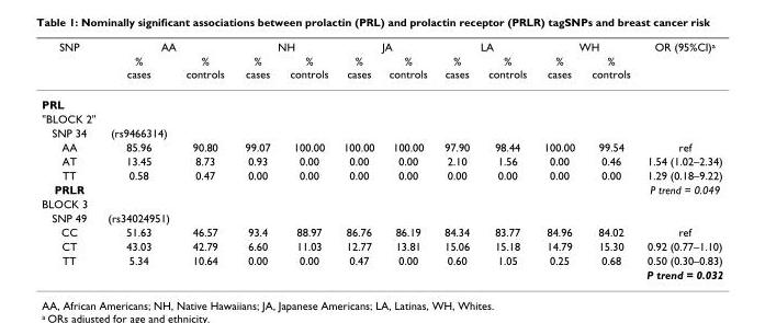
<table><thead><tr><td rowspan="2">SNP</td><td colspan="2">AA</td><td colspan="2">NH</td><td colspan="2">JA</td><td colspan="2">LA</td><td colspan="2">WH</td><td rowspan="2">OR (95%CI)<sup>a</sup></td></tr><tr><td>% cases</td><td>% controls</td><td>% cases</td><td>% controls</td><td>% cases</td><td>% controls</td><td>% cases</td><td>% controls</td><td>% cases</td><td>% controls</td></tr></thead><tbody><tr><td colspan="12">PRL</td></tr><tr><td colspan="12">&quot;BLOCK 2&quot;</td></tr><tr><td>SNP 34</td><td>(rs9466314)</td><td></td><td></td><td></td><td></td><td></td><td></td><td></td><td></td><td></td><td></td></tr><tr><td>AA</td><td>85.96</td><td>90.80</td><td>99.07</td><td>100.00</td><td>100.00</td><td>100.00</td><td>97.90</td><td>98.44</td><td>100.00</td><td>99.54</td><td>ref</td></tr><tr><td>AT</td><td>13.45</td><td>8.73</td><td>0.93</td><td>0.00</td><td>0.00</td><td>0.00</td><td>2.10</td><td>1.56</td><td>0.00</td><td>0.46</td><td>1.54 (1.02–2.34)</td></tr><tr><td>TT</td><td>0.58</td><td>0.47</td><td>0.00</td><td>0.00</td><td>0.00</td><td>0.00</td><td>0.00</td><td>0.00</td><td>0.00</td><td>0.00</td><td>1.29 (0.18–9.22)</td></tr><tr><td>PRLR</td><td></td><td></td><td></td><td></td><td></td><td></td><td></td><td></td><td></td><td></td><td>P trend = 0.049</td></tr><tr><td colspan="12">BLOCK 3</td></tr><tr><td>SNP 49</td><td>(rs34024951)</td><td></td><td></td><td></td><td></td><td></td><td></td><td></td><td></td><td></td><td></td></tr><tr><td>CC</td><td>51.63</td><td>46.57</td><td>93.4</td><td>88.97</td><td>86.76</td><td>86.19</td><td>84.34</td><td>83.77</td><td>84.96</td><td>84.02</td><td>ref</td></tr><tr><td>CT</td><td>43.03</td><td>42.79</td><td>6.60</td><td>11.03</td><td>12.77</td><td>13.81</td><td>15.06</td><td>15.18</td><td>14.79</td><td>15.30</td><td>0.92 (0.77–1.10)</td></tr><tr><td rowspan="2">TT</td><td>5.34</td><td>10.64</td><td>0.00</td><td>0.00</td><td>0.47</td><td>0.00</td><td>0.60</td><td>1.05</td><td>0.25</td><td>0.68</td><td>0.50 (0.30–0.83)</td></tr><tr><td></td><td></td><td></td><td></td><td></td><td></td><td></td><td></td><td></td><td></td><td>P trend = 0.032</td></tr></tbody></table>